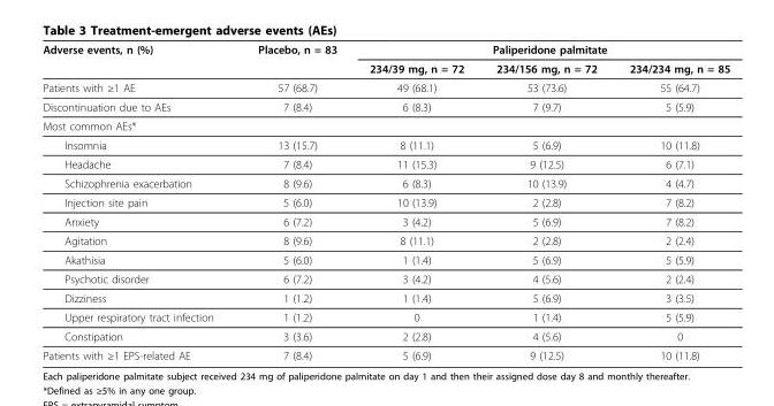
<table><thead><tr><td rowspan="2">Adverse events, n (%)</td><td rowspan="2">Placebo, n = 83</td><td colspan="3">Paliperidone palmitate</td></tr><tr><td>234/39 mg, n = 72</td><td>234/156 mg, n = 72</td><td>234/234 mg, n = 85</td></tr></thead><tbody><tr><td>Patients with ≥1 AE</td><td>57 (68.7)</td><td>49 (68.1)</td><td>53 (73.6)</td><td>55 (64.7)</td></tr><tr><td>Discontinuation due to AEs</td><td>7 (8.4)</td><td>6 (8.3)</td><td>7 (9.7)</td><td>5 (5.9)</td></tr><tr><td colspan="5">Most common AEs*</td></tr><tr><td>Insomnia</td><td>13 (15.7)</td><td>8 (11.1)</td><td>5 (6.9)</td><td>10 (11.8)</td></tr><tr><td>Headache</td><td>7 (8.4)</td><td>11 (15.3)</td><td>9 (12.5)</td><td>6 (7.1)</td></tr><tr><td>Schizophrenia exacerbation</td><td>8 (9.6)</td><td>6 (8.3)</td><td>10 (13.9)</td><td>4 (4.7)</td></tr><tr><td>Injection site pain</td><td>5 (6.0)</td><td>10 (13.9)</td><td>2 (2.8)</td><td>7 (8.2)</td></tr><tr><td>Anxiety</td><td>6 (7.2)</td><td>3 (4.2)</td><td>5 (6.9)</td><td>7 (8.2)</td></tr><tr><td>Agitation</td><td>8 (9.6)</td><td>8 (11.1)</td><td>2 (2.8)</td><td>2 (2.4)</td></tr><tr><td>Akathisia</td><td>5 (6.0)</td><td>1 (1.4)</td><td>5 (6.9)</td><td>5 (5.9)</td></tr><tr><td>Psychotic disorder</td><td>6 (7.2)</td><td>3 (4.2)</td><td>4 (5.6)</td><td>2 (2.4)</td></tr><tr><td>Dizziness</td><td>1 (1.2)</td><td>1 (1.4)</td><td>5 (6.9)</td><td>3 (3.5)</td></tr><tr><td>Upper respiratory tract infection</td><td>1 (1.2)</td><td>0</td><td>1 (1.4)</td><td>5 (5.9)</td></tr><tr><td>Constipation</td><td>3 (3.6)</td><td>2 (2.8)</td><td>4 (5.6)</td><td>0</td></tr><tr><td>Patients with ≥1 EPS-related AE</td><td>7 (8.4)</td><td>5 (6.9)</td><td>9 (12.5)</td><td>10 (11.8)</td></tr></tbody></table>